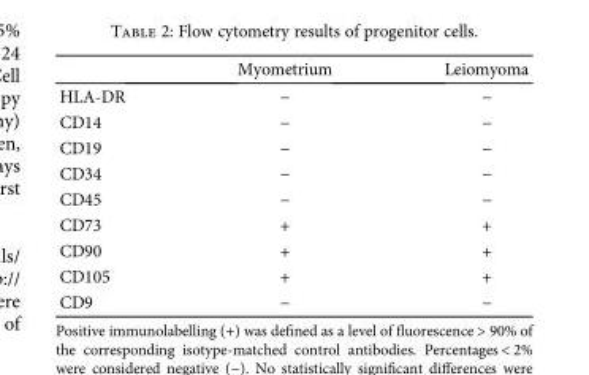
<table><thead><tr><td></td><td>Myometrium</td><td>Leiomyoma</td></tr></thead><tbody><tr><td>HLA-DR</td><td>−</td><td>−</td></tr><tr><td>CD14</td><td>−</td><td>−</td></tr><tr><td>CD19</td><td>−</td><td>−</td></tr><tr><td>CD34</td><td>−</td><td>−</td></tr><tr><td>CD45</td><td>−</td><td>−</td></tr><tr><td>CD73</td><td>+</td><td>+</td></tr><tr><td>CD90</td><td>+</td><td>+</td></tr><tr><td>CD105</td><td>+</td><td>+</td></tr><tr><td>CD9</td><td>−</td><td>−</td></tr></tbody></table>